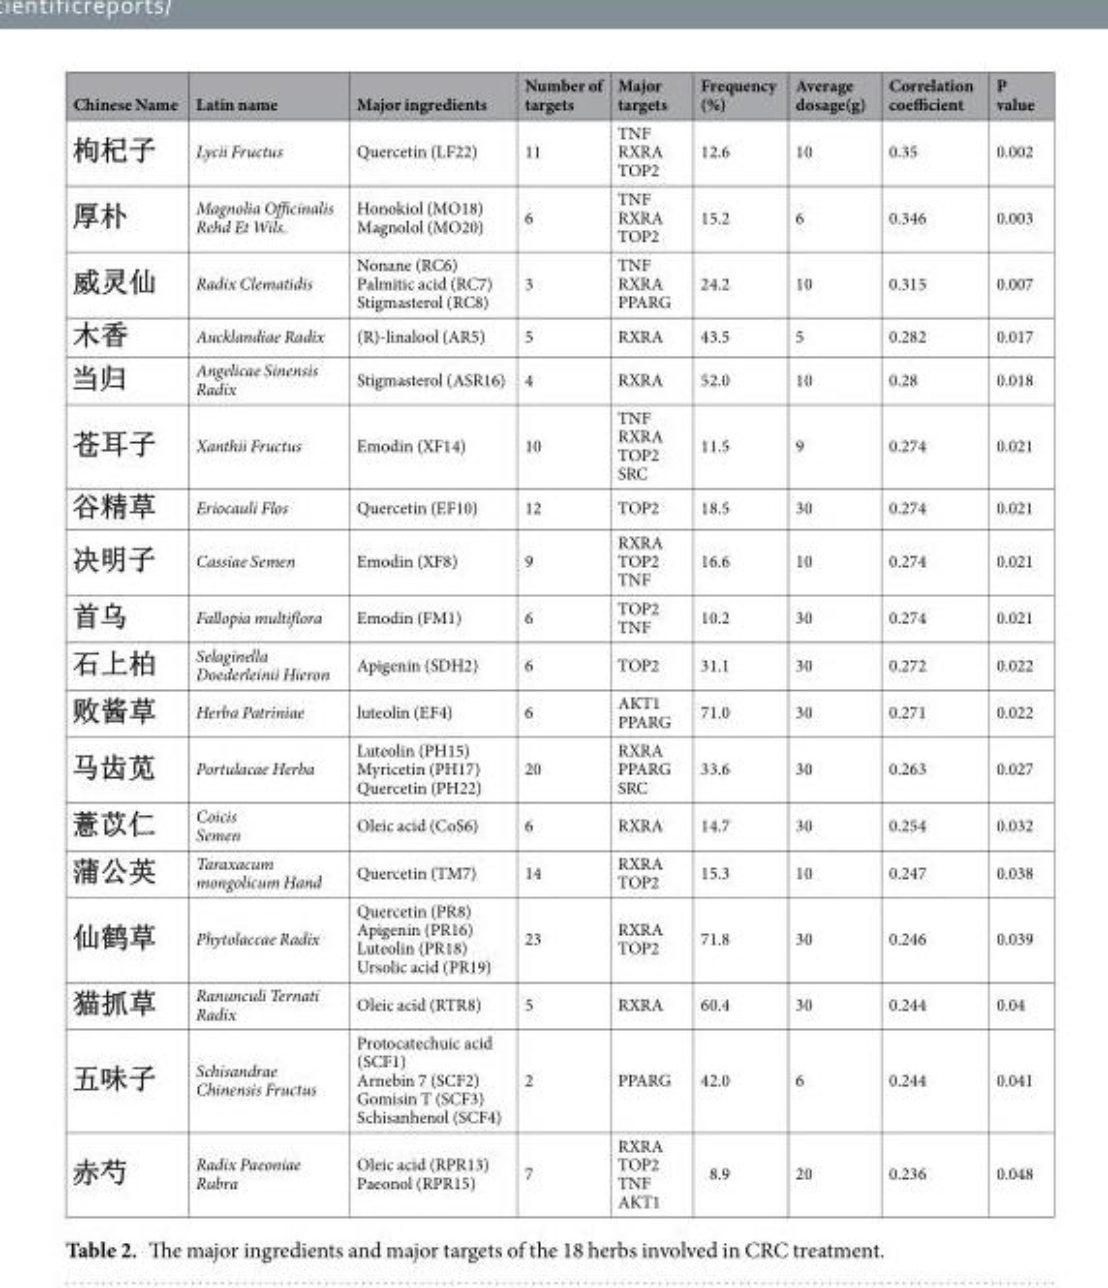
<table><thead><tr><td>Chinese Name</td><td>Latin name</td><td>Major ingredients</td><td>Number of targets</td><td>Major targets</td><td>Frequency (%)</td><td>Average dosage(g)</td><td>Correlation coefficient</td><td>P value</td></tr></thead><tbody><tr><td></td><td>Lycii Fructus</td><td>Quercetin (LF22)</td><td>11</td><td>TNF RXRA TOP2</td><td>12.6</td><td>10</td><td>0.35</td><td>0.002</td></tr><tr><td></td><td>Magnolia Officinalis Rehd Et Wils.</td><td>Honokiol (MO18) Magnolol (MO20)</td><td>6</td><td>TNF RXRA TOP2</td><td>15.2</td><td>6</td><td>0.346</td><td>0.003</td></tr><tr><td></td><td>Radix Clematidis</td><td>Nonane (RC6) Palmitic acid (RC7) Stigmasterol (RC8)</td><td>3</td><td>TNF RXRA PPARG</td><td>24.2</td><td>10</td><td>0.315</td><td>0.007</td></tr><tr><td></td><td>Aucklandiae Radix</td><td>(R)-linalool (AR5)</td><td>5</td><td>RXRA</td><td>43.5</td><td>5</td><td>0.282</td><td>0.017</td></tr><tr><td></td><td>Angelicae Sinensis Radix</td><td>Stigmasterol (ASR16)</td><td>4</td><td>RXRA</td><td>52.0</td><td>10</td><td>0.28</td><td>0.018</td></tr><tr><td></td><td>Xanthii Fructus</td><td>Emodin (XF14)</td><td>10</td><td>TNF RXRA TOP2 SRC</td><td>11.5</td><td>9</td><td>0.274</td><td>0.021</td></tr><tr><td></td><td>Eriocauli Flos</td><td>Quercetin (EF10)</td><td>12</td><td>TOP2</td><td>18.5</td><td>30</td><td>0.274</td><td>0.021</td></tr><tr><td></td><td>Cassiae Semen</td><td>Emodin (XF8)</td><td>9</td><td>RXRA TOP2 TNF</td><td>16.6</td><td>10</td><td>0.274</td><td>0.021</td></tr><tr><td></td><td>Fallopia multiflora</td><td>Emodin (FM1)</td><td>6</td><td>TOP2 TNF</td><td>10.2</td><td>30</td><td>0.274</td><td>0.021</td></tr><tr><td></td><td>Selaginella Doederleinii Hieron</td><td>Apigenin (SDH2)</td><td>6</td><td>TOP2</td><td>31.1</td><td>30</td><td>0.272</td><td>0.022</td></tr><tr><td></td><td>Herba Patriniae</td><td>luteolin (EF4)</td><td>6</td><td>AKT1 PPARG</td><td>71.0</td><td>30</td><td>0.271</td><td>0.022</td></tr><tr><td></td><td>Portulacae Herba</td><td>Luteolin (PH15) Myricetin (PH17) Quercetin (PH22)</td><td>20</td><td>RXRA PPARG SRC</td><td>33.6</td><td>30</td><td>0.263</td><td>0.027</td></tr><tr><td></td><td>Coicis Semen</td><td>Oleic acid (CoS6)</td><td>6</td><td>RXRA</td><td>14.7</td><td>30</td><td>0.254</td><td>0.032</td></tr><tr><td></td><td>Taraxacum mongolicum Hand</td><td>Quercetin (TM7)</td><td>14</td><td>RXRA TOP2</td><td>15.3</td><td>10</td><td>0.247</td><td>0.038</td></tr><tr><td></td><td>Phytolaccae Radix</td><td>Quercetin (PR8) Apigenin (PR16) Luteolin (PR18) Ursolic acid (PR19)</td><td>23</td><td>RXRA TOP2</td><td>71.8</td><td>30</td><td>0.246</td><td>0.039</td></tr><tr><td></td><td>Ranunculi Ternati Radix</td><td>Oleic acid (RTR8)</td><td>5</td><td>RXRA</td><td>60.4</td><td>30</td><td>0.244</td><td>0.04</td></tr><tr><td></td><td>Schisandrae Chinensis Fructus</td><td>Protocatechuic acid (SCF1) Arnebin 7 (SCF2) Gomisin T (SCF3) Schisanhenol (SCF4)</td><td>2</td><td>PPARG</td><td>42.0</td><td>6</td><td>0.244</td><td>0.041</td></tr><tr><td></td><td>Radix Paeoniae Rubra</td><td>Oleic acid (RPR13) Paeonol (RPR15)</td><td>7</td><td>RXRA TOP2 TNF AKT1</td><td>8.9</td><td>20</td><td>0.236</td><td>0.048</td></tr></tbody></table>